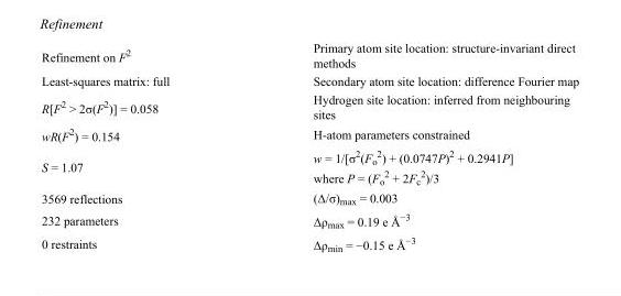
<table><tbody><tr><td>Refinement on F<sup>2</sup></td><td>Primary atom site location: structure-invariant direct methods</td></tr><tr><td>Least-squares matrix: full</td><td>Secondary atom site location: difference Fourier map</td></tr><tr><td>R[F<sup>2</sup> &gt; 2σ(F<sup>2</sup>)] = 0.058</td><td>Hydrogen site location: inferred from neighbouring sites</td></tr><tr><td>wR(F<sup>2</sup>) = 0.154</td><td>H-atom parameters constrained</td></tr><tr><td>S = 1.07</td><td>w = 1/[σ<sup>2</sup>(F<sub>o</sub> <sup>2</sup>) + (0.0747P)<sup>2</sup> + 0.2941P] where P = (F<sub>o</sub> <sup>2</sup> + 2F<sub>c</sub> <sup>2</sup>)/3</td></tr><tr><td>3569 reflections</td><td>(Δ/σ)<sub>max</sub> = 0.003</td></tr><tr><td>232 parameters</td><td>Δρ<sub>max</sub> = 0.19 e Å<sup>−3</sup></td></tr><tr><td>0 restraints</td><td>Δρ<sub>min</sub> = −0.15 e Å<sup>−3</sup></td></tr></tbody></table>